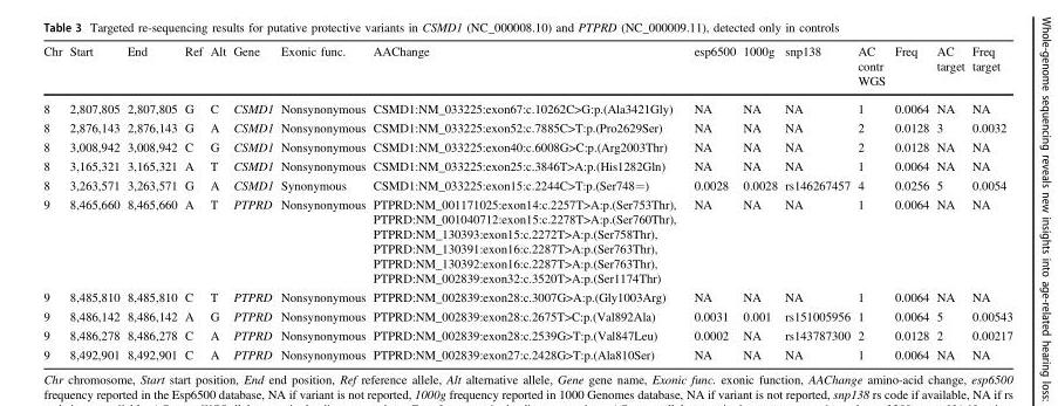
<table><thead><tr><td>Chr</td><td>Start</td><td>End</td><td>Ref</td><td>Alt</td><td>Gene</td><td>Exonic func.</td><td>AAChange</td><td>esp6500</td><td>1000g</td><td>snp138</td><td>AC contr WGS</td><td>Freq</td><td>AC target</td><td>Freq target</td></tr></thead><tbody><tr><td>8</td><td>2,807,805</td><td>2,807,805</td><td>G</td><td>C</td><td>CSMD1</td><td>Nonsynonymous</td><td>CSMD1:NM_033225:exon67:c.10262C&gt;G:p.(Ala3421Gly)</td><td>NA</td><td>NA</td><td>NA</td><td>1</td><td>0.0064</td><td>NA</td><td>NA</td></tr><tr><td>8</td><td>2,876,143</td><td>2,876,143</td><td>G</td><td>A</td><td>CSMD1</td><td>Nonsynonymous</td><td>CSMD1:NM_033225:exon52:c.7885C&gt;T:p.(Pro2629Ser)</td><td>NA</td><td>NA</td><td>NA</td><td>2</td><td>0.0128</td><td>3</td><td>0.0032</td></tr><tr><td>8</td><td>3,008,942</td><td>3,008,942</td><td>C</td><td>G</td><td>CSMD1</td><td>Nonsynonymous</td><td>CSMD1:NM_033225:exon40:c.6008G&gt;C:p.(Arg2003Thr)</td><td>NA</td><td>NA</td><td>NA</td><td>2</td><td>0.0128</td><td>NA</td><td>NA</td></tr><tr><td>8</td><td>3,165,321</td><td>3,165,321</td><td>A</td><td>T</td><td>CSMD1</td><td>Nonsynonymous</td><td>CSMD1:NM_033225:exon25:c.3846T&gt;A:p.(His1282Gln)</td><td>NA</td><td>NA</td><td>NA</td><td>1</td><td>0.0064</td><td>NA</td><td>NA</td></tr><tr><td>8</td><td>3,263,571</td><td>3,263,571</td><td>G</td><td>A</td><td>CSMD1</td><td>Synonymous</td><td>CSMD1:NM_033225:exon15:c.2244C&gt;T:p.(Ser748=)</td><td>0.0028</td><td>0.0028</td><td>rs146267457</td><td>4</td><td>0.0256</td><td>5</td><td>0.0054</td></tr><tr><td>9</td><td>8,465,660</td><td>8,465,660</td><td>A</td><td>T</td><td>PTPRD</td><td>Nonsynonymous</td><td>PTPRD:NM_001171025:exon14:c.2257T&gt;A:p.(Ser753Thr), PTPRD:NM_001040712:exon15:c.2278T&gt;A:p.(Ser760Thr), PTPRD:NM_130393:exon15:c.2272T&gt;A:p.(Ser758Thr), PTPRD:NM_130391:exon16:c.2287T&gt;A:p.(Ser763Thr), PTPRD:NM_130392:exon16:c.2287T&gt;A:p.(Ser763Thr), PTPRD:NM_002839:exon32:c.3520T&gt;A:p.(Ser1174Thr)</td><td>NA</td><td>NA</td><td>NA</td><td>1</td><td>0.0064</td><td>NA</td><td>NA</td></tr><tr><td>9</td><td>8,485,810</td><td>8,485,810</td><td>C</td><td>T</td><td>PTPRD</td><td>Nonsynonymous</td><td>PTPRD:NM_002839:exon28:c.3007G&gt;A:p.(Gly1003Arg)</td><td>NA</td><td>NA</td><td>NA</td><td>1</td><td>0.0064</td><td>NA</td><td>NA</td></tr><tr><td>9</td><td>8,486,142</td><td>8,486,142</td><td>A</td><td>G</td><td>PTPRD</td><td>Nonsynonymous</td><td>PTPRD:NM_002839:exon28:c.2675T&gt;C:p.(Val892Ala)</td><td>0.0031</td><td>0.001</td><td>rs151005956</td><td>1</td><td>0.0064</td><td>5</td><td>0.00543</td></tr><tr><td>9</td><td>8,486,278</td><td>8,486,278</td><td>C</td><td>A</td><td>PTPRD</td><td>Nonsynonymous</td><td>PTPRD:NM_002839:exon28:c.2539G&gt;T:p.(Val847Leu)</td><td>0.0002</td><td>NA</td><td>rs143787300</td><td>2</td><td>0.0128</td><td>2</td><td>0.00217</td></tr><tr><td>9</td><td>8,492,901</td><td>8,492,901</td><td>C</td><td>A</td><td>PTPRD</td><td>Nonsynonymous</td><td>PTPRD:NM_002839:exon27:c.2428G&gt;T:p.(Ala810Ser)</td><td>NA</td><td>NA</td><td>NA</td><td>1</td><td>0.0064</td><td>NA</td><td>NA</td></tr></tbody></table>